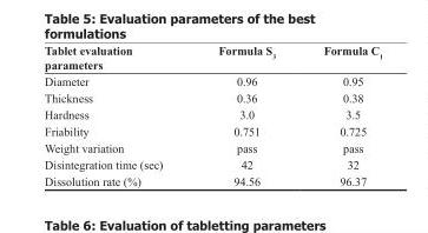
<table><thead><tr><td>Tablet evaluation parameters</td><td>Formula S<sub>3</sub></td><td>Formula C<sub>1</sub></td></tr></thead><tbody><tr><td>Diameter</td><td>0.96</td><td>0.95</td></tr><tr><td>Thickness</td><td>0.36</td><td>0.38</td></tr><tr><td>Hardness</td><td>3.0</td><td>3.5</td></tr><tr><td>Friability</td><td>0.751</td><td>0.725</td></tr><tr><td>Weight variation</td><td>pass</td><td>pass</td></tr><tr><td>Disintegration time (sec)</td><td>42</td><td>32</td></tr><tr><td>Dissolution rate (%)</td><td>94.56</td><td>96.37</td></tr></tbody></table>